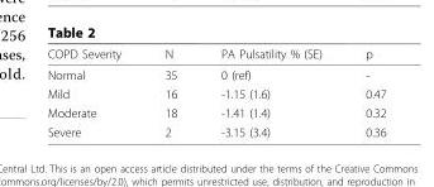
<table><thead><tr><td>COPD Severity</td><td>N</td><td>PA Pulsatility % (SE)</td><td>p</td></tr></thead><tbody><tr><td>Normal</td><td>35</td><td>0 (ref)</td><td>-</td></tr><tr><td>Mild</td><td>16</td><td>-1.15 (1.6)</td><td>0.47</td></tr><tr><td>Moderate</td><td>18</td><td>-1.41 (1.4)</td><td>0.32</td></tr><tr><td>Severe</td><td>2</td><td>-3.15 (3.4)</td><td>0.36</td></tr></tbody></table>